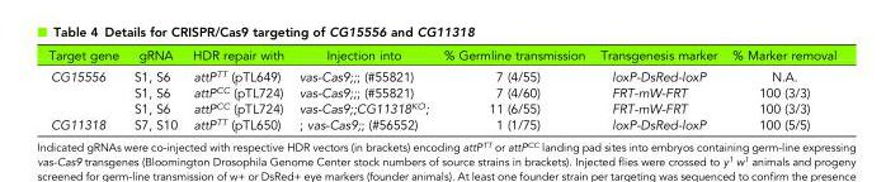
<table><thead><tr><td>Target gene</td><td>gRNA</td><td>HDR repair with</td><td>Injection into</td><td>% Germline transmission</td><td>Transgenesis marker</td><td>% Marker removal</td></tr></thead><tbody><tr><td rowspan="3">CG15556</td><td>S1, S6</td><td>attP<sup>TT</sup> (pTL649)</td><td>vas-Cas9;;; (#55821)</td><td>7 (4/55)</td><td>loxP-DsRed-loxP</td><td>N.A.</td></tr><tr><td>S1, S6</td><td>attP<sup>CC</sup> (pTL724)</td><td>vas-Cas9;;; (#55821)</td><td>7 (4/60)</td><td>FRT-mW-FRT</td><td>100 (3/3)</td></tr><tr><td>S1, S6</td><td>attP<sup>CC</sup> (pTL724)</td><td>vas-Cas9;;CG11318<sup>KO</sup>;</td><td>11 (6/55)</td><td>FRT-mW-FRT</td><td>100 (3/3)</td></tr><tr><td>CG11318</td><td>S7, S10</td><td>attP<sup>TT</sup> (pTL650)</td><td>; vas-Cas9;; (#56552)</td><td>1 (1/75)</td><td>loxP-DsRed-loxP</td><td>100 (5/5)</td></tr></tbody></table>